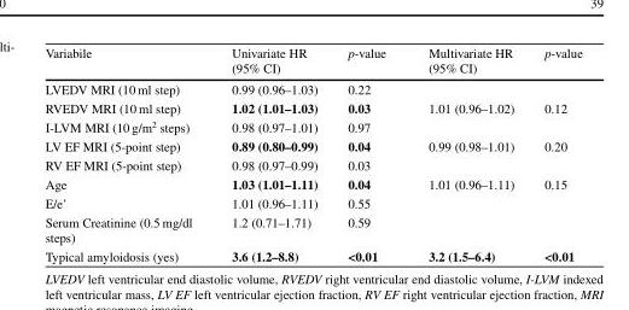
<table><thead><tr><td>Variabile</td><td>Univariate HR (95% CI)</td><td>p-value</td><td>Multivariate HR (95% CI)</td><td>p-value</td></tr></thead><tbody><tr><td>LVEDV MRI (10 ml step)</td><td>0.99 (0.96–1.03)</td><td>0.22</td><td></td><td></td></tr><tr><td>RVEDV MRI (10 ml step)</td><td>1.02 (1.01–1.03)</td><td>0.03</td><td>1.01 (0.96–1.02)</td><td>0.12</td></tr><tr><td>I-LVM MRI (10 g/m<sup>2</sup> steps)</td><td>0.98 (0.97–1.01)</td><td>0.97</td><td></td><td></td></tr><tr><td>LV EF MRI (5-point step)</td><td>0.89 (0.80–0.99)</td><td>0.04</td><td>0.99 (0.98–1.01)</td><td>0.20</td></tr><tr><td>RV EF MRI (5-point step)</td><td>0.98 (0.97–0.99)</td><td>0.03</td><td></td><td></td></tr><tr><td>Age</td><td>1.03 (1.01–1.11)</td><td>0.04</td><td>1.01 (0.96–1.11)</td><td>0.15</td></tr><tr><td>E/e’</td><td>1.01 (0.96–1.11)</td><td>0.55</td><td></td><td></td></tr><tr><td>Serum Creatinine (0.5 mg/dl steps)</td><td>1.2 (0.71–1.71)</td><td>0.59</td><td></td><td></td></tr><tr><td>Typical amyloidosis (yes)</td><td>3.6 (1.2–8.8)</td><td>&lt;0.01</td><td>3.2 (1.5–6.4)</td><td>&lt;0.01</td></tr></tbody></table>